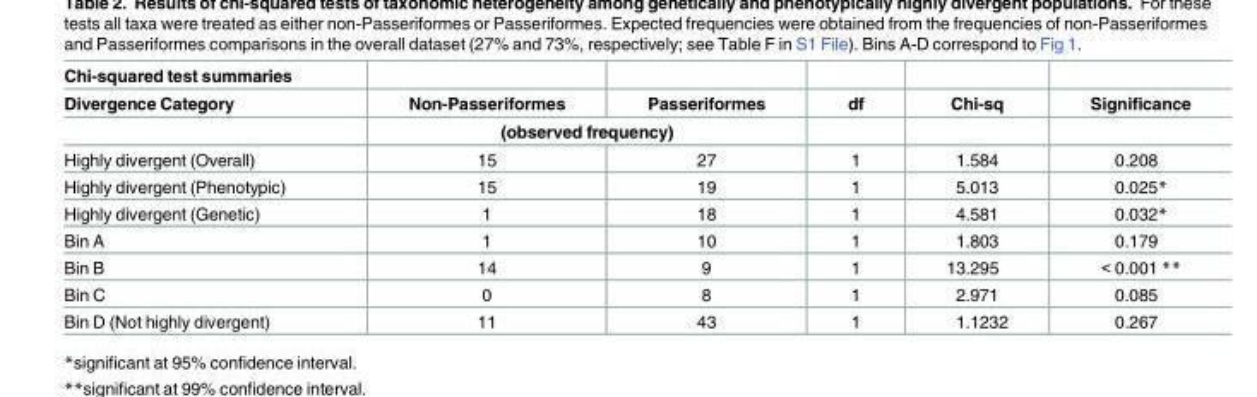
<table><thead><tr><td rowspan="3">Chi-squared test summaries Divergence Category</td><td rowspan="2">Non-Passeriformes</td><td rowspan="2">Passeriformes</td><td rowspan="3">df</td><td rowspan="3">Chi-sq</td><td rowspan="3">Significance</td></tr><tr></tr><tr><td colspan="2">(observed frequency)</td></tr></thead><tbody><tr><td>Highly divergent (Overall)</td><td>15</td><td>27</td><td>1</td><td>1.584</td><td>0.208</td></tr><tr><td>Highly divergent (Phenotypic)</td><td>15</td><td>19</td><td>1</td><td>5.013</td><td>0.025*</td></tr><tr><td>Highly divergent (Genetic)</td><td>1</td><td>18</td><td>1</td><td>4.581</td><td>0.032*</td></tr><tr><td>Bin A</td><td>1</td><td>10</td><td>1</td><td>1.803</td><td>0.179</td></tr><tr><td>Bin B</td><td>14</td><td>9</td><td>1</td><td>13.295</td><td>&lt; 0.001 **</td></tr><tr><td>Bin C</td><td>0</td><td>8</td><td>1</td><td>2.971</td><td>0.085</td></tr><tr><td>Bin D (Not highly divergent)</td><td>11</td><td>43</td><td>1</td><td>1.1232</td><td>0.267</td></tr></tbody></table>